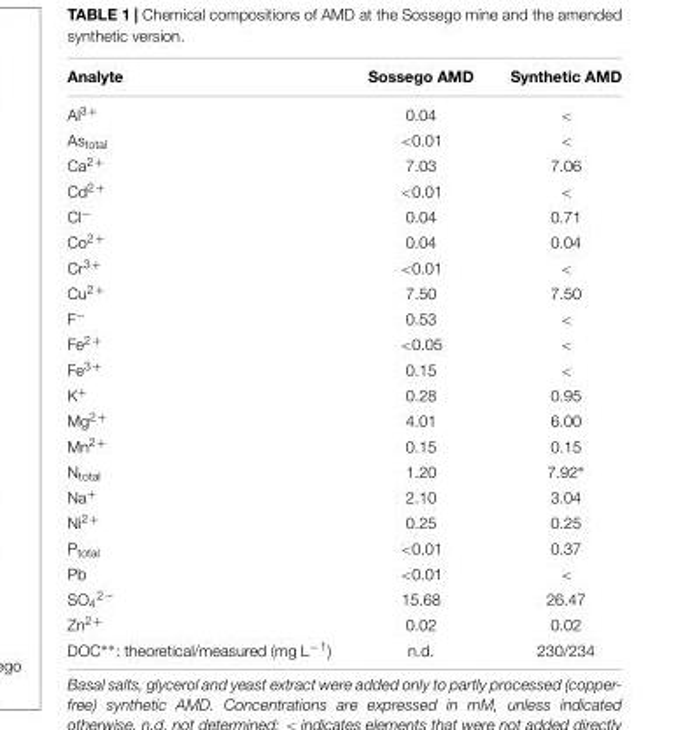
<table><thead><tr><td>Analyte</td><td>Sossego AMD</td><td>Synthetic AMD</td></tr></thead><tbody><tr><td>Al<sup>3+</sup></td><td>0.04</td><td>&lt;</td></tr><tr><td>As<sub>total</sub></td><td>&lt;0.01</td><td>&lt;</td></tr><tr><td>Ca<sup>2+</sup></td><td>7.03</td><td>7.06</td></tr><tr><td>Cd<sup>2+</sup></td><td>&lt;0.01</td><td>&lt;</td></tr><tr><td>Cl<sup>−</sup></td><td>0.04</td><td>0.71</td></tr><tr><td>Co<sup>2+</sup></td><td>0.04</td><td>0.04</td></tr><tr><td>Cr<sup>3+</sup></td><td>&lt;0.01</td><td>&lt;</td></tr><tr><td>Cu<sup>2+</sup></td><td>7.50</td><td>7.50</td></tr><tr><td>F<sup>−</sup></td><td>0.53</td><td>&lt;</td></tr><tr><td>Fe<sup>2+</sup></td><td>&lt;0.05</td><td>&lt;</td></tr><tr><td>Fe<sup>3+</sup></td><td>0.15</td><td>&lt;</td></tr><tr><td>K<sup>+</sup></td><td>0.28</td><td>0.95</td></tr><tr><td>Mg<sup>2+</sup></td><td>4.01</td><td>6.00</td></tr><tr><td>Mn<sup>2+</sup></td><td>0.15</td><td>0.15</td></tr><tr><td>N<sub>total</sub></td><td>1.20</td><td>7.92∗</td></tr><tr><td>Na<sup>+</sup></td><td>2.10</td><td>3.04</td></tr><tr><td>Ni<sup>2+</sup></td><td>0.25</td><td>0.25</td></tr><tr><td>P<sub>total</sub></td><td>&lt;0.01</td><td>0.37</td></tr><tr><td>Pb</td><td>&lt;0.01</td><td>&lt;</td></tr><tr><td>SO<sub>4</sub><sup>2−</sup></td><td>15.68</td><td>26.47</td></tr><tr><td>Zn<sup>2+</sup></td><td>0.02</td><td>0.02</td></tr><tr><td>DOC∗∗: theoretical/measured (mg L<sup>−1</sup>)</td><td>n.d.</td><td>230/234</td></tr></tbody></table>